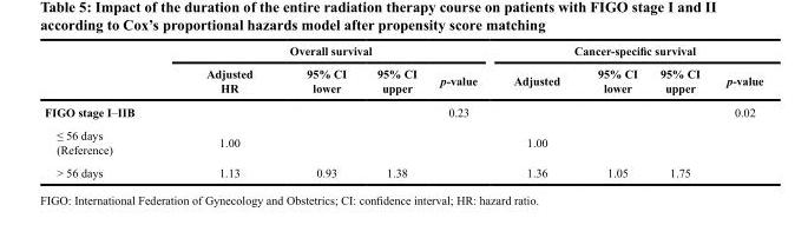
<table><thead><tr><td rowspan="2"></td><td colspan="4">Overall survival</td><td colspan="4">Cancer-specific survival</td></tr><tr><td>Adjusted HR</td><td>95% CI lower</td><td>95% CI upper</td><td>p-value</td><td>Adjusted</td><td>95% CI lower</td><td>95% CI upper</td><td>p-value</td></tr></thead><tbody><tr><td>FIGO stage I–IIB</td><td></td><td></td><td></td><td>0.23</td><td></td><td></td><td></td><td>0.02</td></tr><tr><td>≤ 56 days (Reference)</td><td>1.00</td><td></td><td></td><td></td><td>1.00</td><td></td><td></td><td></td></tr><tr><td>&gt; 56 days</td><td>1.13</td><td>0.93</td><td>1.38</td><td></td><td>1.36</td><td>1.05</td><td>1.75</td><td></td></tr></tbody></table>